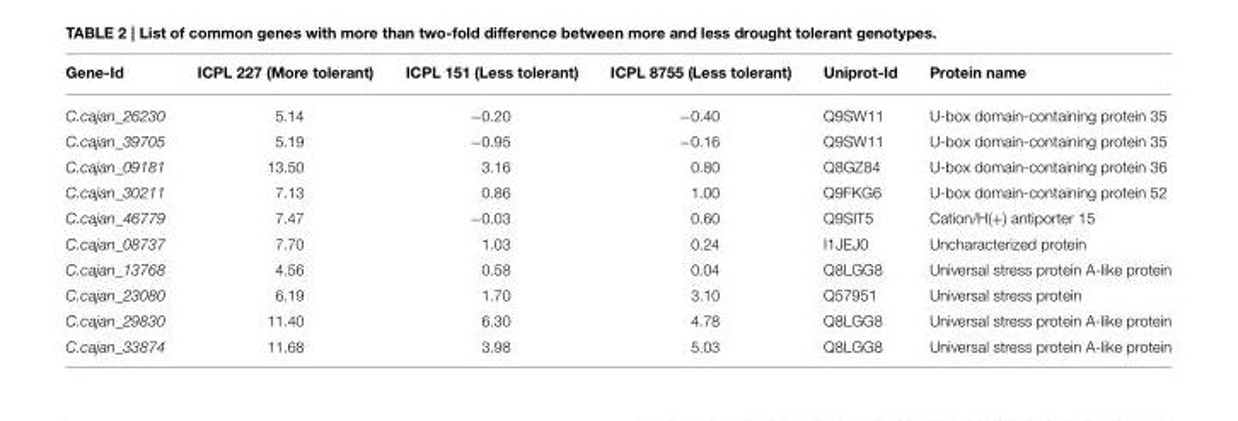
<table><thead><tr><td>Gene-Id</td><td>ICPL 227 (More tolerant)</td><td>ICPL 151 (Less tolerant)</td><td>ICPL 8755 (Less tolerant)</td><td>Uniprot-Id</td><td>Protein name</td></tr></thead><tbody><tr><td>C.cajan_26230</td><td>5.14</td><td>−0.20</td><td>−0.40</td><td>Q9SW11</td><td>U-box domain-containing protein 35</td></tr><tr><td>C.cajan_39705</td><td>5.19</td><td>−0.95</td><td>−0.16</td><td>Q9SW11</td><td>U-box domain-containing protein 35</td></tr><tr><td>C.cajan_09181</td><td>13.50</td><td>3.16</td><td>0.80</td><td>Q8GZ84</td><td>U-box domain-containing protein 36</td></tr><tr><td>C.cajan_30211</td><td>7.13</td><td>0.86</td><td>1.00</td><td>Q9FKG6</td><td>U-box domain-containing protein 52</td></tr><tr><td>C.cajan_46779</td><td>7.47</td><td>−0.03</td><td>0.60</td><td>Q9SIT5</td><td>Cation/H(+) antiporter 15</td></tr><tr><td>C.cajan_08737</td><td>7.70</td><td>1.03</td><td>0.24</td><td>I1JEJ0</td><td>Uncharacterized protein</td></tr><tr><td>C.cajan_13768</td><td>4.56</td><td>0.58</td><td>0.04</td><td>Q8LGG8</td><td>Universal stress protein A-like protein</td></tr><tr><td>C.cajan_23080</td><td>6.19</td><td>1.70</td><td>3.10</td><td>Q57951</td><td>Universal stress protein</td></tr><tr><td>C.cajan_29830</td><td>11.40</td><td>6.30</td><td>4.78</td><td>Q8LGG8</td><td>Universal stress protein A-like protein</td></tr><tr><td>C.cajan_33874</td><td>11.68</td><td>3.98</td><td>5.03</td><td>Q8LGG8</td><td>Universal stress protein A-like protein</td></tr></tbody></table>